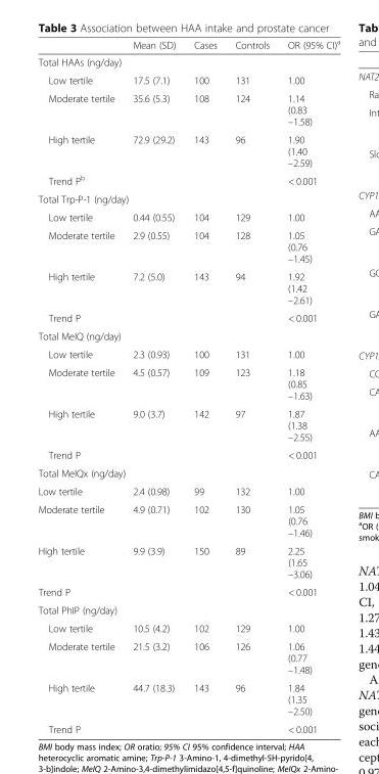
<table><thead><tr><td></td><td>Mean (SD)</td><td>Cases</td><td>Controls</td><td>OR (95% CI)<sup>a</sup></td></tr></thead><tbody><tr><td colspan="5">Total HAAs (ng/day)</td></tr><tr><td>Low tertile</td><td>17.5 (7.1)</td><td>100</td><td>131</td><td>1.00</td></tr><tr><td>Moderate tertile</td><td>35.6 (5.3)</td><td>108</td><td>124</td><td>1.14 (0.83 –1.58)</td></tr><tr><td>High tertile</td><td>72.9 (29.2)</td><td>143</td><td>96</td><td>1.90 (1.40 –2.59)</td></tr><tr><td>Trend P<sup>b</sup></td><td></td><td></td><td></td><td>&lt; 0.001</td></tr><tr><td colspan="5">Total Trp-P-1 (ng/day)</td></tr><tr><td>Low tertile</td><td>0.44 (0.55)</td><td>104</td><td>129</td><td>1.00</td></tr><tr><td>Moderate tertile</td><td>2.9 (0.55)</td><td>104</td><td>128</td><td>1.05 (0.76 –1.45)</td></tr><tr><td>High tertile</td><td>7.2 (5.0)</td><td>143</td><td>94</td><td>1.92 (1.42 –2.61)</td></tr><tr><td>Trend P</td><td></td><td></td><td></td><td>&lt; 0.001</td></tr><tr><td colspan="5">Total MeIQ (ng/day)</td></tr><tr><td>Low tertile</td><td>2.3 (0.93)</td><td>100</td><td>131</td><td>1.00</td></tr><tr><td>Moderate tertile</td><td>4.5 (0.57)</td><td>109</td><td>123</td><td>1.18 (0.85 –1.63)</td></tr><tr><td>High tertile</td><td>9.0 (3.7)</td><td>142</td><td>97</td><td>1.87 (1.38 –2.55)</td></tr><tr><td>Trend P</td><td></td><td></td><td></td><td>&lt; 0.001</td></tr><tr><td colspan="5">Total MeIQx (ng/day)</td></tr><tr><td>Low tertile</td><td>2.4 (0.98)</td><td>99</td><td>132</td><td>1.00</td></tr><tr><td>Moderate tertile</td><td>4.9 (0.71)</td><td>102</td><td>130</td><td>1.05 (0.76 –1.46)</td></tr><tr><td>High tertile</td><td>9.9 (3.9)</td><td>150</td><td>89</td><td>2.25 (1.65 –3.06)</td></tr><tr><td>Trend P</td><td></td><td></td><td></td><td>&lt; 0.001</td></tr><tr><td colspan="5">Total PhIP (ng/day)</td></tr><tr><td>Low tertile</td><td>10.5 (4.2)</td><td>102</td><td>129</td><td>1.00</td></tr><tr><td>Moderate tertile</td><td>21.5 (3.2)</td><td>106</td><td>126</td><td>1.06 (0.77 –1.48)</td></tr><tr><td>High tertile</td><td>44.7 (18.3)</td><td>143</td><td>96</td><td>1.84 (1.35 –2.50)</td></tr><tr><td>Trend P</td><td></td><td></td><td></td><td>&lt; 0.001</td></tr></tbody></table>